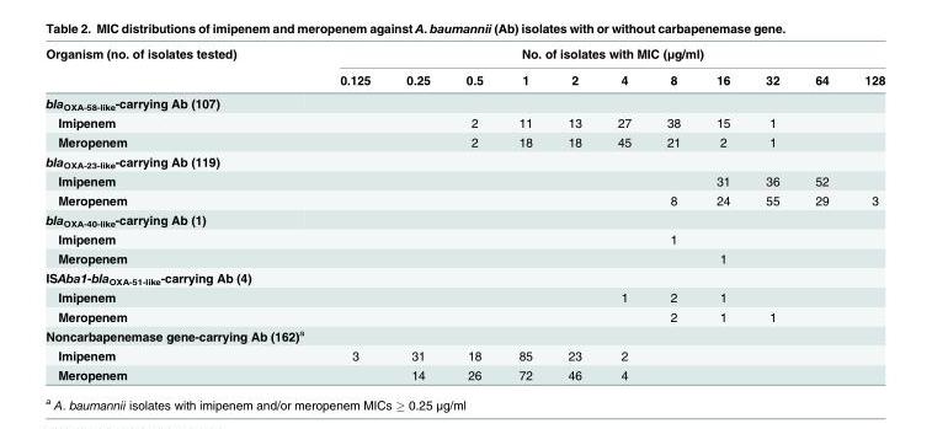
<table><thead><tr><td rowspan="2">Organism (no. of isolates tested)</td><td colspan="11">No. of isolates with MIC (μg/ml)</td></tr><tr><td>0.125</td><td>0.25</td><td>0.5</td><td>1</td><td>2</td><td>4</td><td>8</td><td>16</td><td>32</td><td>64</td><td>128</td></tr></thead><tbody><tr><td colspan="12">bla<sub>OXA-58-like</sub>-carrying Ab (107)</td></tr><tr><td>Imipenem</td><td></td><td></td><td>2</td><td>11</td><td>13</td><td>27</td><td>38</td><td>15</td><td>1</td><td></td><td></td></tr><tr><td>Meropenem</td><td></td><td></td><td>2</td><td>18</td><td>18</td><td>45</td><td>21</td><td>2</td><td>1</td><td></td><td></td></tr><tr><td colspan="12">bla<sub>OXA-23-like</sub>-carrying Ab (119)</td></tr><tr><td>Imipenem</td><td></td><td></td><td></td><td></td><td></td><td></td><td></td><td>31</td><td>36</td><td>52</td><td></td></tr><tr><td>Meropenem</td><td></td><td></td><td></td><td></td><td></td><td></td><td>8</td><td>24</td><td>55</td><td>29</td><td>3</td></tr><tr><td colspan="12">bla<sub>OXA-40-like</sub>-carrying Ab (1)</td></tr><tr><td>Imipenem</td><td></td><td></td><td></td><td></td><td></td><td></td><td>1</td><td></td><td></td><td></td><td></td></tr><tr><td>Meropenem</td><td></td><td></td><td></td><td></td><td></td><td></td><td></td><td>1</td><td></td><td></td><td></td></tr><tr><td colspan="12">ISAba1-bla<sub>OXA-51-like</sub>-carrying Ab (4)</td></tr><tr><td>Imipenem</td><td></td><td></td><td></td><td></td><td></td><td>1</td><td>2</td><td>1</td><td></td><td></td><td></td></tr><tr><td>Meropenem</td><td></td><td></td><td></td><td></td><td></td><td></td><td>2</td><td>1</td><td>1</td><td></td><td></td></tr><tr><td colspan="12">Noncarbapenemase gene-carrying Ab (162)<sup>a</sup></td></tr><tr><td>Imipenem</td><td>3</td><td>31</td><td>18</td><td>85</td><td>23</td><td>2</td><td></td><td></td><td></td><td></td><td></td></tr><tr><td>Meropenem</td><td></td><td>14</td><td>26</td><td>72</td><td>46</td><td>4</td><td></td><td></td><td></td><td></td><td></td></tr></tbody></table>